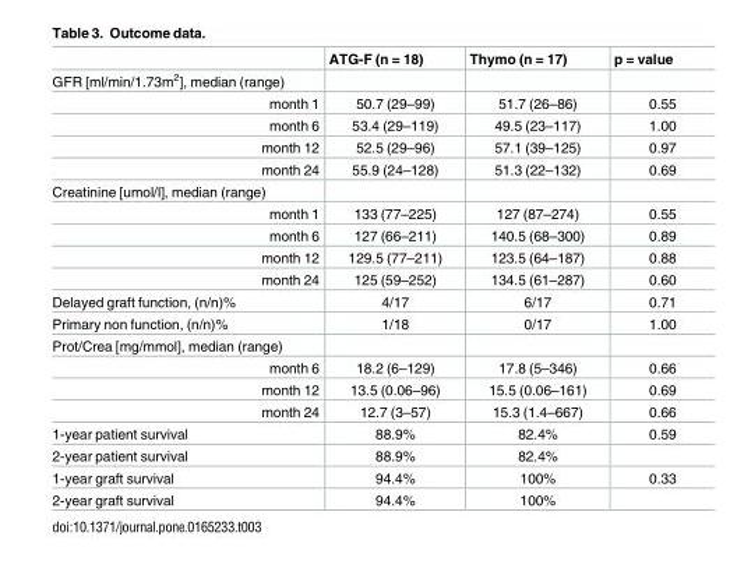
<table><thead><tr><td></td><td>ATG-F (n = 18)</td><td>Thymo (n = 17)</td><td>p = value</td></tr></thead><tbody><tr><td colspan="4">GFR [ml/min/1.73m<sup>2</sup>], median (range)</td></tr><tr><td>month 1</td><td>50.7 (29–99)</td><td>51.7 (26–86)</td><td>0.55</td></tr><tr><td>month 6</td><td>53.4 (29–119)</td><td>49.5 (23–117)</td><td>1.00</td></tr><tr><td>month 12</td><td>52.5 (29–96)</td><td>57.1 (39–125)</td><td>0.97</td></tr><tr><td>month 24</td><td>55.9 (24–128)</td><td>51.3 (22–132)</td><td>0.69</td></tr><tr><td colspan="4">Creatinine [umol/l], median (range)</td></tr><tr><td>month 1</td><td>133 (77–225)</td><td>127 (87–274)</td><td>0.55</td></tr><tr><td>month 6</td><td>127 (66–211)</td><td>140.5 (68–300)</td><td>0.89</td></tr><tr><td>month 12</td><td>129.5 (77–211)</td><td>123.5 (64–187)</td><td>0.88</td></tr><tr><td>month 24</td><td>125 (59–252)</td><td>134.5 (61–287)</td><td>0.60</td></tr><tr><td>Delayed graft function, (n/n)%</td><td>4/17</td><td>6/17</td><td>0.71</td></tr><tr><td>Primary non function, (n/n)%</td><td>1/18</td><td>0/17</td><td>1.00</td></tr><tr><td colspan="4">Prot/Crea [mg/mmol], median (range)</td></tr><tr><td>month 6</td><td>18.2 (6–129)</td><td>17.8 (5–346)</td><td>0.66</td></tr><tr><td>month 12</td><td>13.5 (0.06–96)</td><td>15.5 (0.06–161)</td><td>0.69</td></tr><tr><td>month 24</td><td>12.7 (3–57)</td><td>15.3 (1.4–667)</td><td>0.66</td></tr><tr><td>1-year patient survival</td><td>88.9%</td><td>82.4%</td><td>0.59</td></tr><tr><td>2-year patient survival</td><td>88.9%</td><td>82.4%</td><td></td></tr><tr><td>1-year graft survival</td><td>94.4%</td><td>100%</td><td>0.33</td></tr><tr><td>2-year graft survival</td><td>94.4%</td><td>100%</td><td></td></tr></tbody></table>